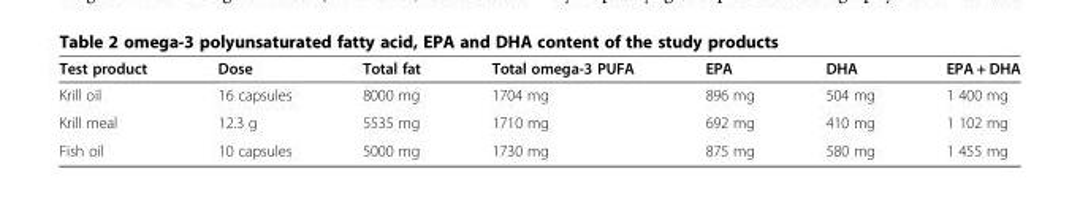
<table><thead><tr><td>Test product</td><td>Dose</td><td>Total fat</td><td>Total omega-3 PUFA</td><td>EPA</td><td>DHA</td><td>EPA + DHA</td></tr></thead><tbody><tr><td>Krill oil</td><td>16 capsules</td><td>8000 mg</td><td>1704 mg</td><td>896 mg</td><td>504 mg</td><td>1 400 mg</td></tr><tr><td>Krill meal</td><td>12.3 g</td><td>5535 mg</td><td>1710 mg</td><td>692 mg</td><td>410 mg</td><td>1 102 mg</td></tr><tr><td>Fish oil</td><td>10 capsules</td><td>5000 mg</td><td>1730 mg</td><td>875 mg</td><td>580 mg</td><td>1 455 mg</td></tr></tbody></table>